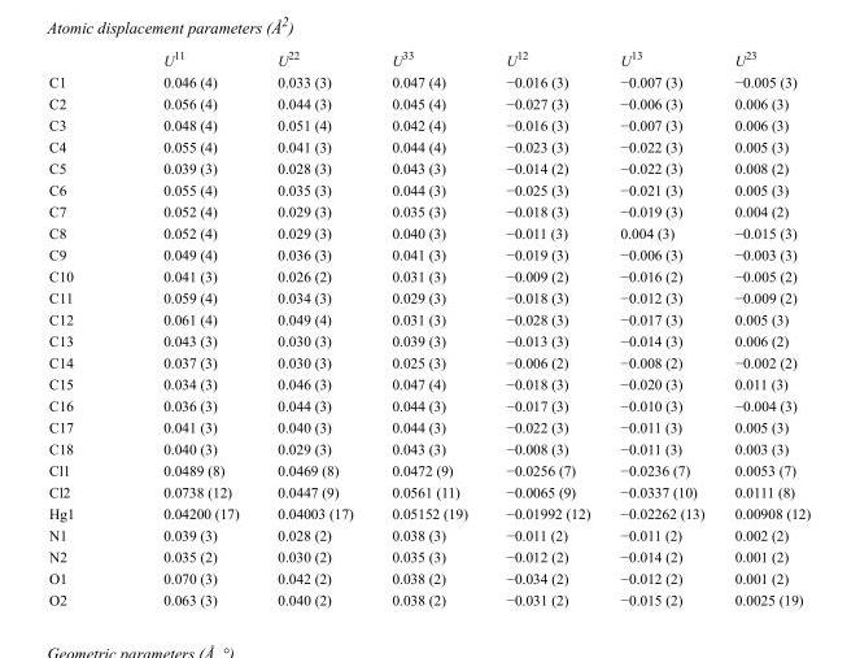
<table><thead><tr><td></td><td>U<sup>11</sup></td><td>U<sup>22</sup></td><td>U<sup>33</sup></td><td>U<sup>12</sup></td><td>U<sup>13</sup></td><td>U<sup>23</sup></td></tr></thead><tbody><tr><td>C1</td><td>0.046 (4)</td><td>0.033 (3)</td><td>0.047 (4)</td><td>−0.016 (3)</td><td>−0.007 (3)</td><td>−0.005 (3)</td></tr><tr><td>C2</td><td>0.056 (4)</td><td>0.044 (3)</td><td>0.045 (4)</td><td>−0.027 (3)</td><td>−0.006 (3)</td><td>0.006 (3)</td></tr><tr><td>C3</td><td>0.048 (4)</td><td>0.051 (4)</td><td>0.042 (4)</td><td>−0.016 (3)</td><td>−0.007 (3)</td><td>0.006 (3)</td></tr><tr><td>C4</td><td>0.055 (4)</td><td>0.041 (3)</td><td>0.044 (4)</td><td>−0.023 (3)</td><td>−0.022 (3)</td><td>0.005 (3)</td></tr><tr><td>C5</td><td>0.039 (3)</td><td>0.028 (3)</td><td>0.043 (3)</td><td>−0.014 (2)</td><td>−0.022 (3)</td><td>0.008 (2)</td></tr><tr><td>C6</td><td>0.055 (4)</td><td>0.035 (3)</td><td>0.044 (3)</td><td>−0.025 (3)</td><td>−0.021 (3)</td><td>0.005 (3)</td></tr><tr><td>C7</td><td>0.052 (4)</td><td>0.029 (3)</td><td>0.035 (3)</td><td>−0.018 (3)</td><td>−0.019 (3)</td><td>0.004 (2)</td></tr><tr><td>C8</td><td>0.052 (4)</td><td>0.029 (3)</td><td>0.040 (3)</td><td>−0.011 (3)</td><td>0.004 (3)</td><td>−0.015 (3)</td></tr><tr><td>C9</td><td>0.049 (4)</td><td>0.036 (3)</td><td>0.041 (3)</td><td>−0.019 (3)</td><td>−0.006 (3)</td><td>−0.003 (3)</td></tr><tr><td>C10</td><td>0.041 (3)</td><td>0.026 (2)</td><td>0.031 (3)</td><td>−0.009 (2)</td><td>−0.016 (2)</td><td>−0.005 (2)</td></tr><tr><td>C11</td><td>0.059 (4)</td><td>0.034 (3)</td><td>0.029 (3)</td><td>−0.018 (3)</td><td>−0.012 (3)</td><td>−0.009 (2)</td></tr><tr><td>C12</td><td>0.061 (4)</td><td>0.049 (4)</td><td>0.031 (3)</td><td>−0.028 (3)</td><td>−0.017 (3)</td><td>0.005 (3)</td></tr><tr><td>C13</td><td>0.043 (3)</td><td>0.030 (3)</td><td>0.039 (3)</td><td>−0.013 (3)</td><td>−0.014 (3)</td><td>0.006 (2)</td></tr><tr><td>C14</td><td>0.037 (3)</td><td>0.030 (3)</td><td>0.025 (3)</td><td>−0.006 (2)</td><td>−0.008 (2)</td><td>−0.002 (2)</td></tr><tr><td>C15</td><td>0.034 (3)</td><td>0.046 (3)</td><td>0.047 (4)</td><td>−0.018 (3)</td><td>−0.020 (3)</td><td>0.011 (3)</td></tr><tr><td>C16</td><td>0.036 (3)</td><td>0.044 (3)</td><td>0.044 (3)</td><td>−0.017 (3)</td><td>−0.010 (3)</td><td>−0.004 (3)</td></tr><tr><td>C17</td><td>0.041 (3)</td><td>0.040 (3)</td><td>0.044 (3)</td><td>−0.022 (3)</td><td>−0.011 (3)</td><td>0.005 (3)</td></tr><tr><td>C18</td><td>0.040 (3)</td><td>0.029 (3)</td><td>0.043 (3)</td><td>−0.008 (3)</td><td>−0.011 (3)</td><td>0.003 (3)</td></tr><tr><td>Cl1</td><td>0.0489 (8)</td><td>0.0469 (8)</td><td>0.0472 (9)</td><td>−0.0256 (7)</td><td>−0.0236 (7)</td><td>0.0053 (7)</td></tr><tr><td>Cl2</td><td>0.0738 (12)</td><td>0.0447 (9)</td><td>0.0561 (11)</td><td>−0.0065 (9)</td><td>−0.0337 (10)</td><td>0.0111 (8)</td></tr><tr><td>Hg1</td><td>0.04200 (17)</td><td>0.04003 (17)</td><td>0.05152 (19)</td><td>−0.01992 (12)</td><td>−0.02262 (13)</td><td>0.00908 (12)</td></tr><tr><td>N1</td><td>0.039 (3)</td><td>0.028 (2)</td><td>0.038 (3)</td><td>−0.011 (2)</td><td>−0.011 (2)</td><td>0.002 (2)</td></tr><tr><td>N2</td><td>0.035 (2)</td><td>0.030 (2)</td><td>0.035 (3)</td><td>−0.012 (2)</td><td>−0.014 (2)</td><td>0.001 (2)</td></tr><tr><td>O1</td><td>0.070 (3)</td><td>0.042 (2)</td><td>0.038 (2)</td><td>−0.034 (2)</td><td>−0.012 (2)</td><td>0.001 (2)</td></tr><tr><td>O2</td><td>0.063 (3)</td><td>0.040 (2)</td><td>0.038 (2)</td><td>−0.031 (2)</td><td>−0.015 (2)</td><td>0.0025 (19)</td></tr></tbody></table>